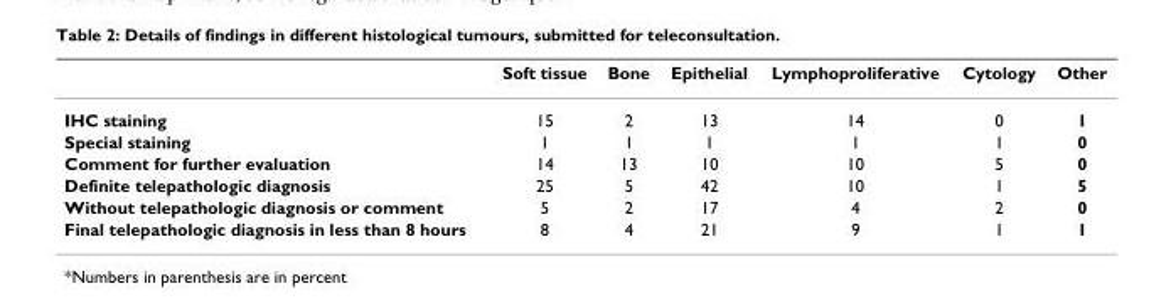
<table><thead><tr><td></td><td>Soft tissue</td><td>Bone</td><td>Epithelial</td><td>Lymphoproliferative</td><td>Cytology</td><td>Other</td></tr></thead><tbody><tr><td>IHC staining</td><td>15</td><td>2</td><td>13</td><td>14</td><td>0</td><td>1</td></tr><tr><td>Special staining</td><td>1</td><td>1</td><td>1</td><td>1</td><td>1</td><td>0</td></tr><tr><td>Comment for further evaluation</td><td>14</td><td>13</td><td>10</td><td>10</td><td>5</td><td>0</td></tr><tr><td>Definite telepathologic diagnosis</td><td>25</td><td>5</td><td>42</td><td>10</td><td>1</td><td>5</td></tr><tr><td>Without telepathologic diagnosis or comment</td><td>5</td><td>2</td><td>17</td><td>4</td><td>2</td><td>0</td></tr><tr><td>Final telepathologic diagnosis in less than 8 hours</td><td>8</td><td>4</td><td>21</td><td>9</td><td>1</td><td>1</td></tr></tbody></table>